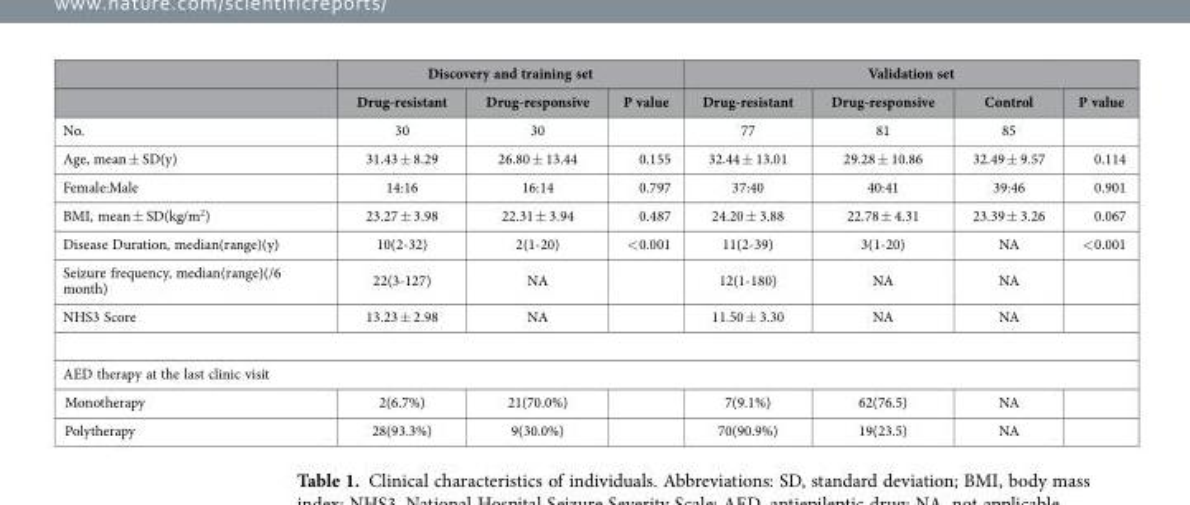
<table><thead><tr><td rowspan="2"></td><td colspan="3">Discovery and training set</td><td colspan="4">Validation set</td></tr><tr><td>Drug-resistant</td><td>Drug-responsive</td><td>P value</td><td>Drug-resistant</td><td>Drug-responsive</td><td>Control</td><td>P value</td></tr></thead><tbody><tr><td>No.</td><td>30</td><td>30</td><td></td><td>77</td><td>81</td><td>85</td><td></td></tr><tr><td>Age, mean ± SD(y)</td><td>31.43 ± 8.29</td><td>26.80 ± 13.44</td><td>0.155</td><td>32.44 ± 13.01</td><td>29.28 ± 10.86</td><td>32.49 ± 9.57</td><td>0.114</td></tr><tr><td>Female:Male</td><td>14:16</td><td>16:14</td><td>0.797</td><td>37:40</td><td>40:41</td><td>39:46</td><td>0.901</td></tr><tr><td>BMI, mean ± SD(kg/m<sup>2</sup>)</td><td>23.27 ± 3.98</td><td>22.31 ± 3.94</td><td>0.487</td><td>24.20 ± 3.88</td><td>22.78 ± 4.31</td><td>23.39 ± 3.26</td><td>0.067</td></tr><tr><td>Disease Duration, median(range)(y)</td><td>10(2-32)</td><td>2(1-20)</td><td>&lt; 0.001</td><td>11(2-39)</td><td>3(1-20)</td><td>NA</td><td>&lt; 0.001</td></tr><tr><td>Seizure frequency, median(range)(/6 month)</td><td>22(3-127)</td><td>NA</td><td></td><td>12(1-180)</td><td>NA</td><td>NA</td><td></td></tr><tr><td>NHS3 Score</td><td>13.23 ± 2.98</td><td>NA</td><td></td><td>11.50 ± 3.30</td><td>NA</td><td>NA</td><td></td></tr><tr><td colspan="8">AED therapy at the last clinic visit</td></tr><tr><td>Monotherapy</td><td>2(6.7%)</td><td>21(70.0%)</td><td></td><td>7(9.1%)</td><td>62(76.5)</td><td>NA</td><td></td></tr><tr><td>Polytherapy</td><td>28(93.3%)</td><td>9(30.0%)</td><td></td><td>70(90.9%)</td><td>19(23.5)</td><td>NA</td><td></td></tr></tbody></table>